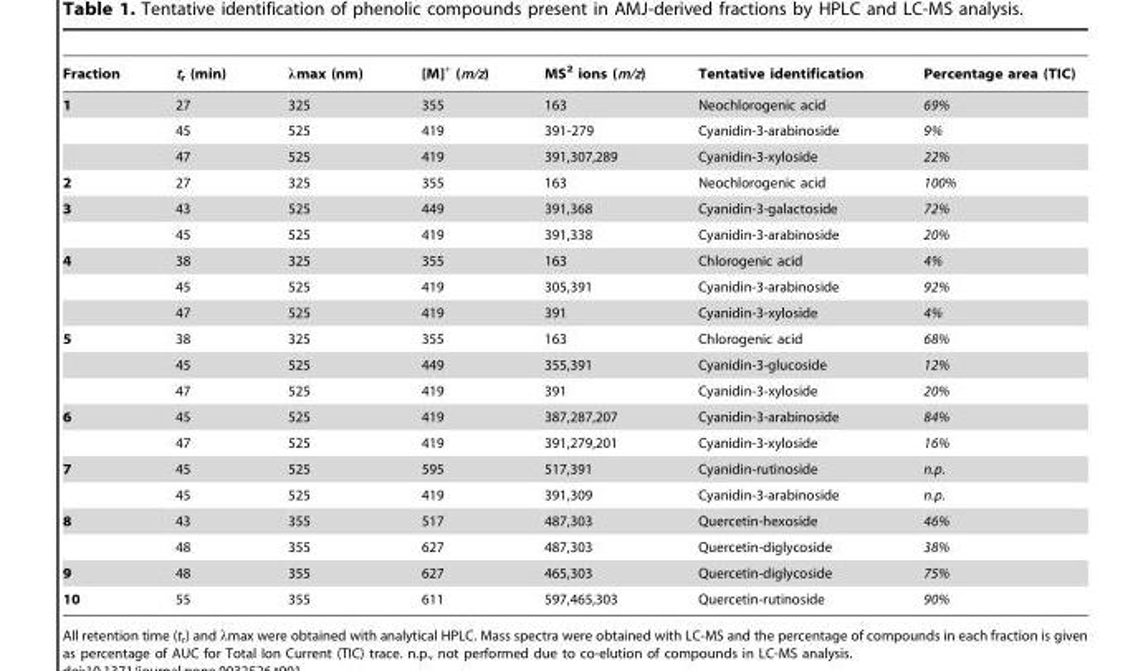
<table><thead><tr><td>Fraction</td><td>t<sub>r</sub> (min)</td><td>λmax (nm)</td><td>[M]<sup>+</sup> (m/z)</td><td>MS<sup>2</sup> ions (m/z)</td><td>Tentative identification</td><td>Percentage area (TIC)</td></tr></thead><tbody><tr><td rowspan="3">1</td><td>27</td><td>325</td><td>355</td><td>163</td><td>Neochlorogenic acid</td><td>69%</td></tr><tr><td>45</td><td>525</td><td>419</td><td>391-279</td><td>Cyanidin-3-arabinoside</td><td>9%</td></tr><tr><td>47</td><td>525</td><td>419</td><td>391,307,289</td><td>Cyanidin-3-xyloside</td><td>22%</td></tr><tr><td>2</td><td>27</td><td>325</td><td>355</td><td>163</td><td>Neochlorogenic acid</td><td>100%</td></tr><tr><td rowspan="2">3</td><td>43</td><td>525</td><td>449</td><td>391,368</td><td>Cyanidin-3-galactoside</td><td>72%</td></tr><tr><td>45</td><td>525</td><td>419</td><td>391,338</td><td>Cyanidin-3-arabinoside</td><td>20%</td></tr><tr><td rowspan="3">4</td><td>38</td><td>325</td><td>355</td><td>163</td><td>Chlorogenic acid</td><td>4%</td></tr><tr><td>45</td><td>525</td><td>419</td><td>305,391</td><td>Cyanidin-3-arabinoside</td><td>92%</td></tr><tr><td>47</td><td>525</td><td>419</td><td>391</td><td>Cyanidin-3-xyloside</td><td>4%</td></tr><tr><td rowspan="3">5</td><td>38</td><td>325</td><td>355</td><td>163</td><td>Chlorogenic acid</td><td>68%</td></tr><tr><td>45</td><td>525</td><td>449</td><td>355,391</td><td>Cyanidin-3-glucoside</td><td>12%</td></tr><tr><td>47</td><td>525</td><td>419</td><td>391</td><td>Cyanidin-3-xyloside</td><td>20%</td></tr><tr><td rowspan="2">6</td><td>45</td><td>525</td><td>419</td><td>387,287,207</td><td>Cyanidin-3-arabinoside</td><td>84%</td></tr><tr><td>47</td><td>525</td><td>419</td><td>391,279,201</td><td>Cyanidin-3-xyloside</td><td>16%</td></tr><tr><td rowspan="2">7</td><td>45</td><td>525</td><td>595</td><td>517,391</td><td>Cyanidin-rutinoside</td><td>n.p.</td></tr><tr><td>45</td><td>525</td><td>419</td><td>391,309</td><td>Cyanidin-3-arabinoside</td><td>n.p.</td></tr><tr><td rowspan="2">8</td><td>43</td><td>355</td><td>517</td><td>487,303</td><td>Quercetin-hexoside</td><td>46%</td></tr><tr><td>48</td><td>355</td><td>627</td><td>487,303</td><td>Quercetin-diglycoside</td><td>38%</td></tr><tr><td>9</td><td>48</td><td>355</td><td>627</td><td>465,303</td><td>Quercetin-diglycoside</td><td>75%</td></tr><tr><td>10</td><td>55</td><td>355</td><td>611</td><td>597,465,303</td><td>Quercetin-rutinoside</td><td>90%</td></tr></tbody></table>